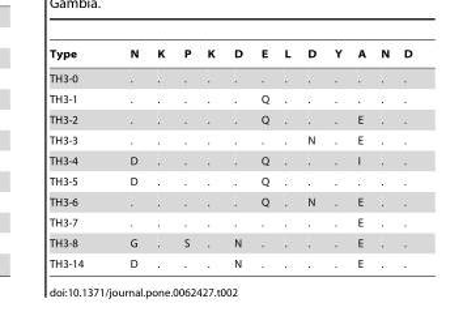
<table><thead><tr><td>Type</td><td>N</td><td>K</td><td>P</td><td>K</td><td>D</td><td>E</td><td>L</td><td>D</td><td>Y</td><td>A</td><td>N</td><td>D</td></tr></thead><tbody><tr><td>TH3-0</td><td>.</td><td>.</td><td>.</td><td>.</td><td>.</td><td>.</td><td>.</td><td>.</td><td>.</td><td>.</td><td>.</td><td>.</td></tr><tr><td>TH3-1</td><td>.</td><td>.</td><td>.</td><td>.</td><td>.</td><td>Q</td><td>.</td><td>.</td><td>.</td><td>.</td><td>.</td><td>.</td></tr><tr><td>TH3-2</td><td>.</td><td>.</td><td>.</td><td>.</td><td>.</td><td>Q</td><td>.</td><td>.</td><td>.</td><td>E</td><td>.</td><td>.</td></tr><tr><td>TH3-3</td><td>.</td><td>.</td><td>.</td><td>.</td><td>.</td><td>.</td><td>.</td><td>N</td><td>.</td><td>E</td><td>.</td><td>.</td></tr><tr><td>TH3-4</td><td>D</td><td>.</td><td>.</td><td>.</td><td>.</td><td>Q</td><td>.</td><td>.</td><td>.</td><td>I</td><td>.</td><td>.</td></tr><tr><td>TH3-5</td><td>D</td><td>.</td><td>.</td><td>.</td><td>.</td><td>Q</td><td>.</td><td>.</td><td>.</td><td>.</td><td>.</td><td>.</td></tr><tr><td>TH3-6</td><td>.</td><td>.</td><td>.</td><td>.</td><td>.</td><td>Q</td><td>.</td><td>N</td><td>.</td><td>E</td><td>.</td><td>.</td></tr><tr><td>TH3-7</td><td>.</td><td>.</td><td>.</td><td>.</td><td>.</td><td>.</td><td>.</td><td>.</td><td>.</td><td>E</td><td>.</td><td>.</td></tr><tr><td>TH3-8</td><td>G</td><td>.</td><td>S</td><td>.</td><td>N</td><td>.</td><td>.</td><td>.</td><td>.</td><td>E</td><td>.</td><td>.</td></tr><tr><td>TH3-14</td><td>D</td><td>.</td><td>.</td><td>.</td><td>N</td><td>.</td><td>.</td><td>.</td><td>.</td><td>E</td><td>.</td><td>.</td></tr></tbody></table>